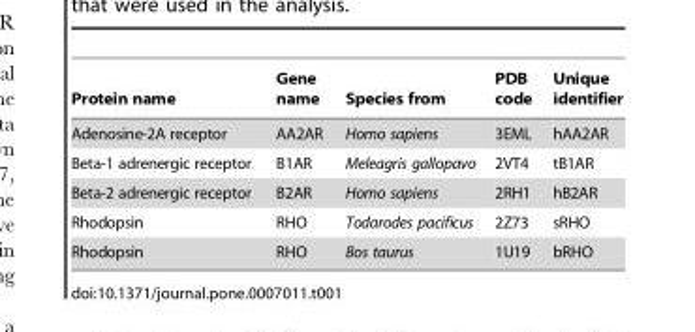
<table><thead><tr><td>Protein name</td><td>Gene name</td><td>Species from</td><td>PDB code</td><td>Unique identifier</td></tr></thead><tbody><tr><td>Adenosine-2A receptor</td><td>AA2AR</td><td>Homo sapiens</td><td>3EML</td><td>hAA2AR</td></tr><tr><td>Beta-1 adrenergic receptor</td><td>B1AR</td><td>Meleagris gallopavo</td><td>2VT4</td><td>tB1AR</td></tr><tr><td>Beta-2 adrenergic receptor</td><td>B2AR</td><td>Homo sapiens</td><td>2RH1</td><td>hB2AR</td></tr><tr><td>Rhodopsin</td><td>RHO</td><td>Todarodes pacificus</td><td>2Z73</td><td>sRHO</td></tr><tr><td>Rhodopsin</td><td>RHO</td><td>Bos taurus</td><td>1U19</td><td>bRHO</td></tr></tbody></table>